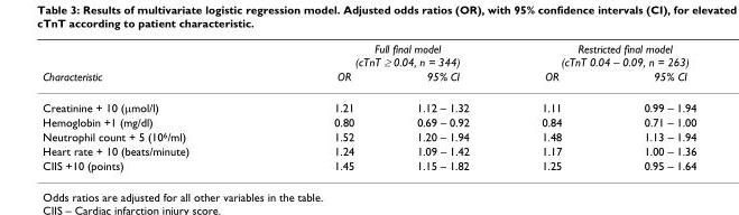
<table><thead><tr><td rowspan="2">Characteristic</td><td colspan="2">Full final model (cTnT ≥ 0.04, n = 344)</td><td colspan="2">Restricted final model (cTnT 0.04 – 0.09, n = 263)</td></tr><tr><td>OR</td><td>95% CI</td><td>OR</td><td>95% CI</td></tr></thead><tbody><tr><td>Creatinine + 10 (μmol/l)</td><td>1.21</td><td>1.12 – 1.32</td><td>1.11</td><td>0.99 – 1.94</td></tr><tr><td>Hemoglobin +1 (mg/dl)</td><td>0.80</td><td>0.69 – 0.92</td><td>0.84</td><td>0.71 – 1.00</td></tr><tr><td>Neutrophil count + 5 (10<sup>6</sup>/ml)</td><td>1.52</td><td>1.20 – 1.94</td><td>1.48</td><td>1.13 – 1.94</td></tr><tr><td>Heart rate + 10 (beats/minute)</td><td>1.24</td><td>1.09 – 1.42</td><td>1.17</td><td>1.00 – 1.36</td></tr><tr><td>CIIS +10 (points)</td><td>1.45</td><td>1.15 – 1.82</td><td>1.25</td><td>0.95 – 1.64</td></tr></tbody></table>